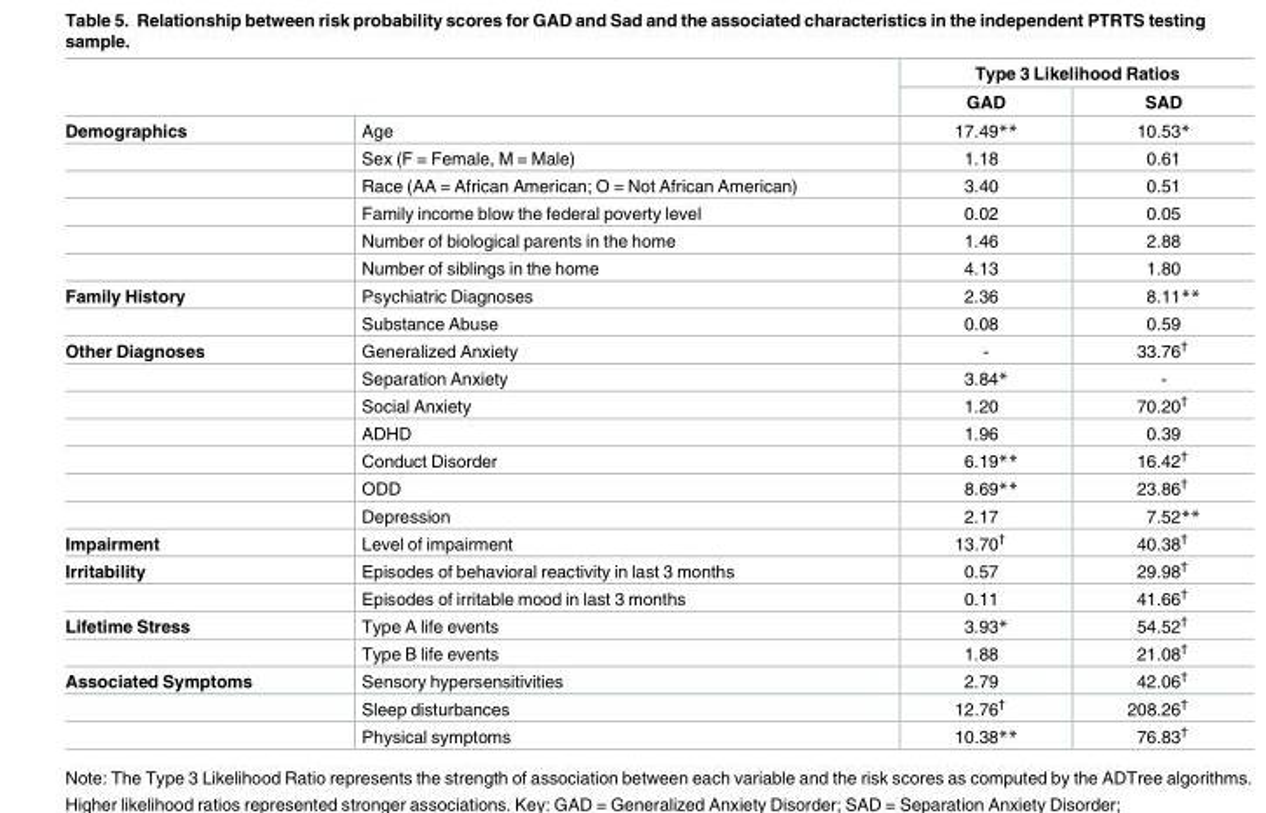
<table><thead><tr><td rowspan="2"></td><td rowspan="2"></td><td colspan="2">Type 3 Likelihood Ratios</td></tr><tr><td>GAD</td><td>SAD</td></tr></thead><tbody><tr><td rowspan="6">Demographics</td><td>Age</td><td>17.49**</td><td>10.53*</td></tr><tr><td>Sex (F = Female, M = Male)</td><td>1.18</td><td>0.61</td></tr><tr><td>Race (AA = African American; O = Not African American)</td><td>3.40</td><td>0.51</td></tr><tr><td>Family income blow the federal poverty level</td><td>0.02</td><td>0.05</td></tr><tr><td>Number of biological parents in the home</td><td>1.46</td><td>2.88</td></tr><tr><td>Number of siblings in the home</td><td>4.13</td><td>1.80</td></tr><tr><td rowspan="2">Family History</td><td>Psychiatric Diagnoses</td><td>2.36</td><td>8.11**</td></tr><tr><td>Substance Abuse</td><td>0.08</td><td>0.59</td></tr><tr><td rowspan="7">Other Diagnoses</td><td>Generalized Anxiety</td><td>-</td><td>33.76<sup>†</sup></td></tr><tr><td>Separation Anxiety</td><td>3.84*</td><td>-</td></tr><tr><td>Social Anxiety</td><td>1.20</td><td>70.20<sup>†</sup></td></tr><tr><td>ADHD</td><td>1.96</td><td>0.39</td></tr><tr><td>Conduct Disorder</td><td>6.19**</td><td>16.42<sup>†</sup></td></tr><tr><td>ODD</td><td>8.69**</td><td>23.86<sup>†</sup></td></tr><tr><td>Depression</td><td>2.17</td><td>7.52**</td></tr><tr><td>Impairment</td><td>Level of impairment</td><td>13.70<sup>†</sup></td><td>40.38<sup>†</sup></td></tr><tr><td rowspan="2">Irritability</td><td>Episodes of behavioral reactivity in last 3 months</td><td>0.57</td><td>29.98<sup>†</sup></td></tr><tr><td>Episodes of irritable mood in last 3 months</td><td>0.11</td><td>41.66<sup>†</sup></td></tr><tr><td rowspan="2">Lifetime Stress</td><td>Type A life events</td><td>3.93*</td><td>54.52<sup>†</sup></td></tr><tr><td>Type B life events</td><td>1.88</td><td>21.08<sup>†</sup></td></tr><tr><td rowspan="3">Associated Symptoms</td><td>Sensory hypersensitivities</td><td>2.79</td><td>42.06<sup>†</sup></td></tr><tr><td>Sleep disturbances</td><td>12.76<sup>†</sup></td><td>208.26<sup>†</sup></td></tr><tr><td>Physical symptoms</td><td>10.38**</td><td>76.83<sup>†</sup></td></tr></tbody></table>